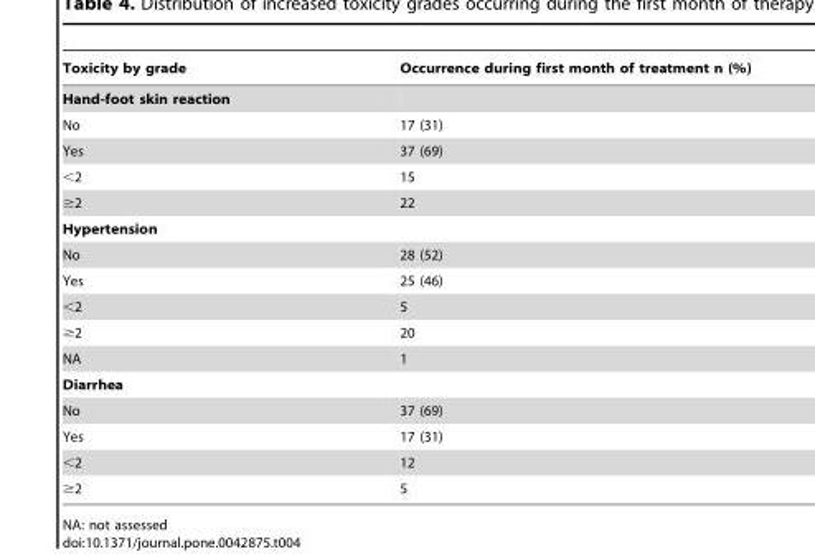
<table><thead><tr><td>Toxicity by grade</td><td>Occurrence during first month of treatment n (%)</td></tr></thead><tbody><tr><td colspan="2">Hand-foot skin reaction</td></tr><tr><td>No</td><td>17 (31)</td></tr><tr><td>Yes</td><td>37 (69)</td></tr><tr><td>&lt;2</td><td>15</td></tr><tr><td>≥2</td><td>22</td></tr><tr><td colspan="2">Hypertension</td></tr><tr><td>No</td><td>28 (52)</td></tr><tr><td>Yes</td><td>25 (46)</td></tr><tr><td>&lt;2</td><td>5</td></tr><tr><td>≥2</td><td>20</td></tr><tr><td>NA</td><td>1</td></tr><tr><td colspan="2">Diarrhea</td></tr><tr><td>No</td><td>37 (69)</td></tr><tr><td>Yes</td><td>17 (31)</td></tr><tr><td>&lt;2</td><td>12</td></tr><tr><td>≥2</td><td>5</td></tr></tbody></table>